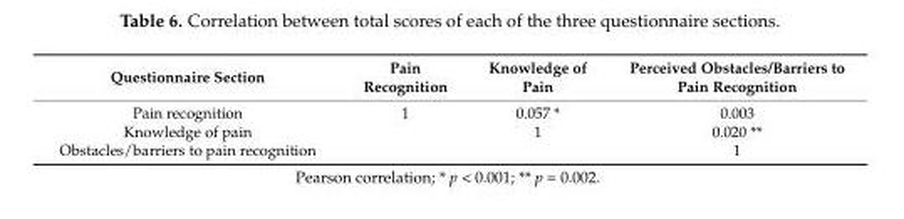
<table><thead><tr><td>Questionnaire Section</td><td>Pain Recognition</td><td>Knowledge of Pain</td><td>Perceived Obstacles/Barriers to Pain Recognition</td></tr></thead><tbody><tr><td>Pain recognition</td><td>1</td><td>0.057 *</td><td>0.003</td></tr><tr><td>Knowledge of pain</td><td></td><td>1</td><td>0.020 **</td></tr><tr><td>Obstacles/barriers to pain recognition</td><td></td><td></td><td>1</td></tr></tbody></table>